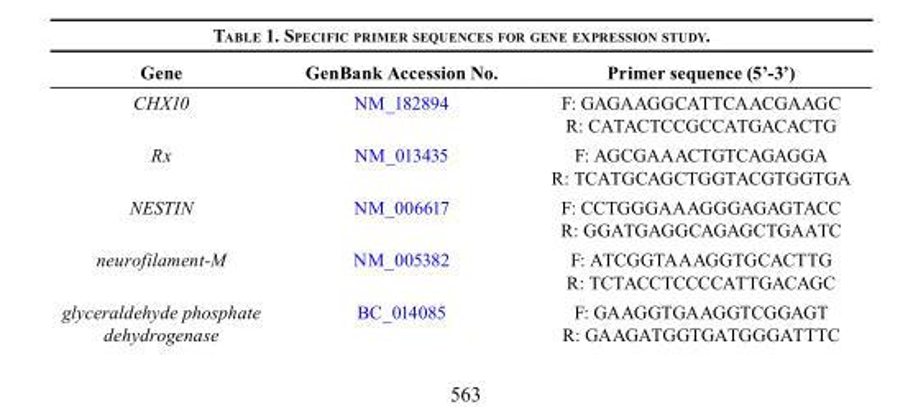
<table><thead><tr><td>Gene</td><td>GenBank Accession No.</td><td>Primer sequence (5’-3’)</td></tr></thead><tbody><tr><td rowspan="2">CHX10</td><td rowspan="2">NM_182894</td><td>F: GAGAAGGCATTCAACGAAGC</td></tr><tr><td>R: CATACTCCGCCATGACACTG</td></tr><tr><td rowspan="2">Rx</td><td rowspan="2">NM_013435</td><td>F: AGCGAAACTGTCAGAGGA</td></tr><tr><td>R: TCATGCAGCTGGTACGTGGTGA</td></tr><tr><td rowspan="2">NESTIN</td><td rowspan="2">NM_006617</td><td>F: CCTGGGAAAGGGAGAGTACC</td></tr><tr><td>R: GGATGAGGCAGAGCTGAATC</td></tr><tr><td rowspan="2">neurofilament-M</td><td rowspan="2">NM_005382</td><td>F: ATCGGTAAAGGTGCACTTG</td></tr><tr><td>R: TCTACCTCCCCATTGACAGC</td></tr><tr><td rowspan="2">glyceraldehyde phosphate dehydrogenase</td><td rowspan="2">BC_014085</td><td>F: GAAGGTGAAGGTCGGAGT</td></tr><tr><td>R: GAAGATGGTGATGGGATTTC</td></tr></tbody></table>